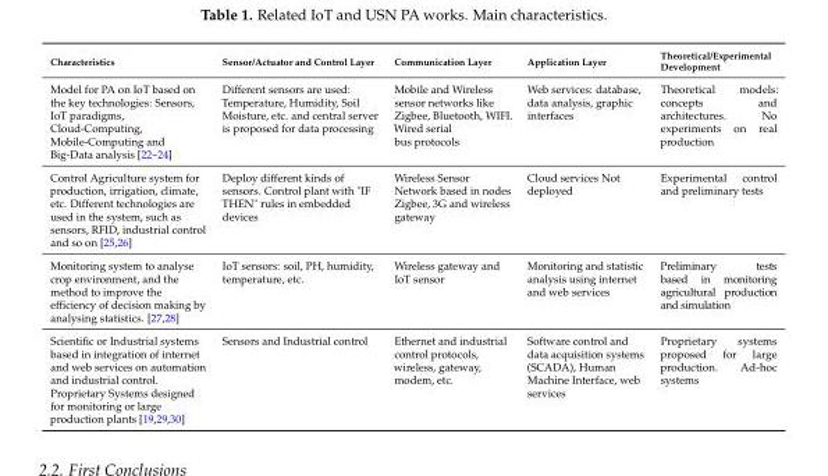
<table><thead><tr><td>Characteristics</td><td>Sensor/Actuator and Control Layer</td><td>Communication Layer</td><td>Application Layer</td><td>Theoretical/Experimental Development</td></tr></thead><tbody><tr><td>Model for PA on IoT based on the key technologies: Sensors, IoT paradigms, Cloud-Computing, Mobile-Computing and Big-Data analysis [22–24]</td><td>Different sensors are used: Temperature, Humidity, Soil Moisture, etc. and central server is proposed for data processing</td><td>Mobile and Wireless sensor networks like Zigbee, Bluetooth, WIFI. Wired serial bus protocols</td><td>Web services: database, data analysis, graphic interfaces</td><td>Theoretical models: concepts and architectures. No experiments on real production</td></tr><tr><td>Control Agriculture system for production, irrigation, climate, etc. Different technologies are used in the system, such as sensors, RFID, industrial control and so on [25,26]</td><td>Deploy different kinds of sensors. Control plant with &quot;IF THEN&quot; rules in embedded devices</td><td>Wireless Sensor Network based in nodes Zigbee, 3G and wireless gateway</td><td>Cloud services Not deployed</td><td>Experimental control and preliminary tests</td></tr><tr><td>Monitoring system to analyse crop environment, and the method to improve the efficiency of decision making by analysing statistics. [27,28]</td><td>IoT sensors: soil, PH, humidity, temperature, etc.</td><td>Wireless gateway and IoT sensor</td><td>Monitoring and statistic analysis using internet and web services</td><td>Preliminary tests based in monitoring agricultural production and simulation</td></tr><tr><td>Scientific or Industrial systems based in integration of internet and web services on automation and industrial control. Proprietary Systems designed for monitoring or large production plants [19,29,30]</td><td>Sensors and Industrial control</td><td>Ethernet and industrial control protocols, wireless, gateway, modem, etc.</td><td>Software control and data acquisition systems (SCADA), Human Machine Interface, web services</td><td>Proprietary systems proposed for large production. Ad-hoc systems</td></tr></tbody></table>